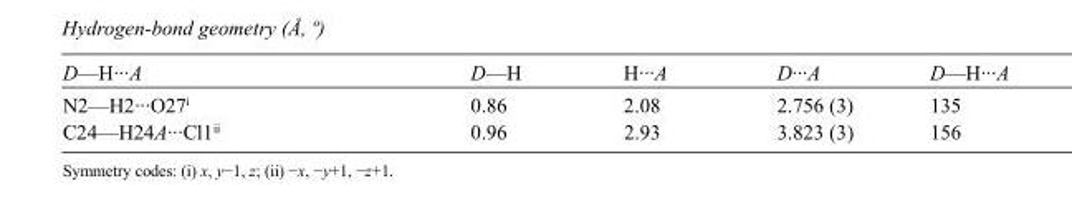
<table><tbody><tr><td>D—H···A</td><td>D—H</td><td>H···A</td><td>D···A</td><td>D—H···A</td></tr><tr><td>N2—H2···O27<sup>i</sup></td><td>0.86</td><td>2.08</td><td>2.756 (3)</td><td>135</td></tr><tr><td>C24—H24A···Cl1<sup>ii</sup></td><td>0.96</td><td>2.93</td><td>3.823 (3)</td><td>156</td></tr></tbody></table>